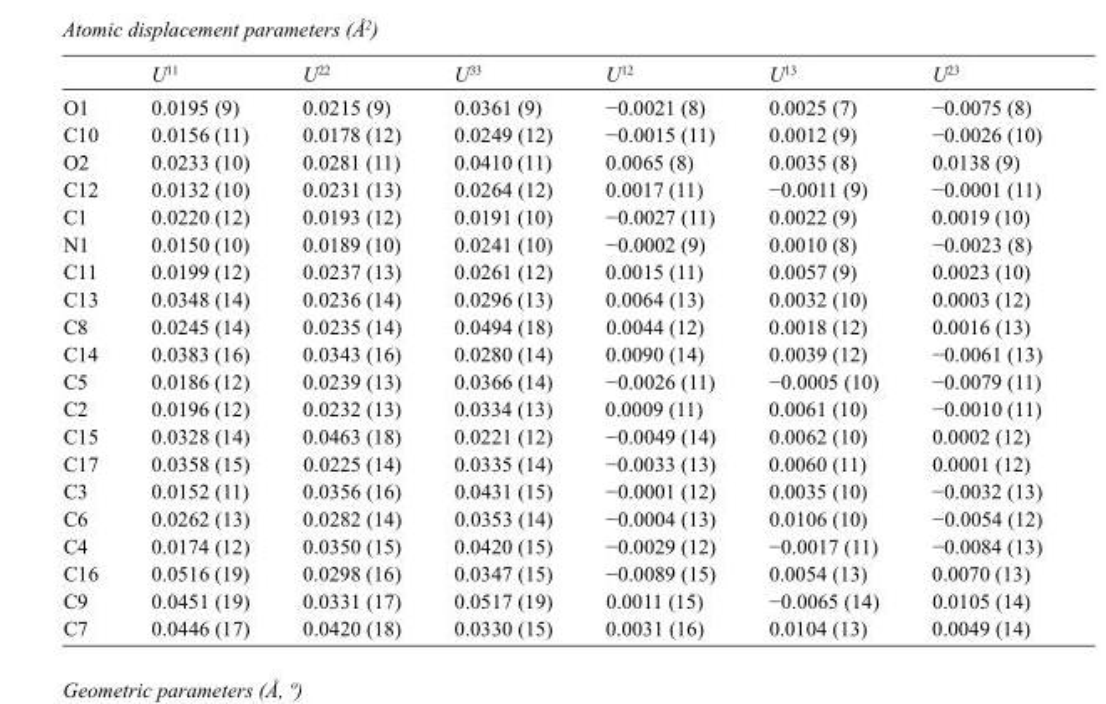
<table><thead><tr><td></td><td>U<sup>11</sup></td><td>U<sup>22</sup></td><td>U<sup>33</sup></td><td>U<sup>12</sup></td><td>U<sup>13</sup></td><td>U<sup>23</sup></td></tr></thead><tbody><tr><td>O1</td><td>0.0195 (9)</td><td>0.0215 (9)</td><td>0.0361 (9)</td><td>−0.0021 (8)</td><td>0.0025 (7)</td><td>−0.0075 (8)</td></tr><tr><td>C10</td><td>0.0156 (11)</td><td>0.0178 (12)</td><td>0.0249 (12)</td><td>−0.0015 (11)</td><td>0.0012 (9)</td><td>−0.0026 (10)</td></tr><tr><td>O2</td><td>0.0233 (10)</td><td>0.0281 (11)</td><td>0.0410 (11)</td><td>0.0065 (8)</td><td>0.0035 (8)</td><td>0.0138 (9)</td></tr><tr><td>C12</td><td>0.0132 (10)</td><td>0.0231 (13)</td><td>0.0264 (12)</td><td>0.0017 (11)</td><td>−0.0011 (9)</td><td>−0.0001 (11)</td></tr><tr><td>C1</td><td>0.0220 (12)</td><td>0.0193 (12)</td><td>0.0191 (10)</td><td>−0.0027 (11)</td><td>0.0022 (9)</td><td>0.0019 (10)</td></tr><tr><td>N1</td><td>0.0150 (10)</td><td>0.0189 (10)</td><td>0.0241 (10)</td><td>−0.0002 (9)</td><td>0.0010 (8)</td><td>−0.0023 (8)</td></tr><tr><td>C11</td><td>0.0199 (12)</td><td>0.0237 (13)</td><td>0.0261 (12)</td><td>0.0015 (11)</td><td>0.0057 (9)</td><td>0.0023 (10)</td></tr><tr><td>C13</td><td>0.0348 (14)</td><td>0.0236 (14)</td><td>0.0296 (13)</td><td>0.0064 (13)</td><td>0.0032 (10)</td><td>0.0003 (12)</td></tr><tr><td>C8</td><td>0.0245 (14)</td><td>0.0235 (14)</td><td>0.0494 (18)</td><td>0.0044 (12)</td><td>0.0018 (12)</td><td>0.0016 (13)</td></tr><tr><td>C14</td><td>0.0383 (16)</td><td>0.0343 (16)</td><td>0.0280 (14)</td><td>0.0090 (14)</td><td>0.0039 (12)</td><td>−0.0061 (13)</td></tr><tr><td>C5</td><td>0.0186 (12)</td><td>0.0239 (13)</td><td>0.0366 (14)</td><td>−0.0026 (11)</td><td>−0.0005 (10)</td><td>−0.0079 (11)</td></tr><tr><td>C2</td><td>0.0196 (12)</td><td>0.0232 (13)</td><td>0.0334 (13)</td><td>0.0009 (11)</td><td>0.0061 (10)</td><td>−0.0010 (11)</td></tr><tr><td>C15</td><td>0.0328 (14)</td><td>0.0463 (18)</td><td>0.0221 (12)</td><td>−0.0049 (14)</td><td>0.0062 (10)</td><td>0.0002 (12)</td></tr><tr><td>C17</td><td>0.0358 (15)</td><td>0.0225 (14)</td><td>0.0335 (14)</td><td>−0.0033 (13)</td><td>0.0060 (11)</td><td>0.0001 (12)</td></tr><tr><td>C3</td><td>0.0152 (11)</td><td>0.0356 (16)</td><td>0.0431 (15)</td><td>−0.0001 (12)</td><td>0.0035 (10)</td><td>−0.0032 (13)</td></tr><tr><td>C6</td><td>0.0262 (13)</td><td>0.0282 (14)</td><td>0.0353 (14)</td><td>−0.0004 (13)</td><td>0.0106 (10)</td><td>−0.0054 (12)</td></tr><tr><td>C4</td><td>0.0174 (12)</td><td>0.0350 (15)</td><td>0.0420 (15)</td><td>−0.0029 (12)</td><td>−0.0017 (11)</td><td>−0.0084 (13)</td></tr><tr><td>C16</td><td>0.0516 (19)</td><td>0.0298 (16)</td><td>0.0347 (15)</td><td>−0.0089 (15)</td><td>0.0054 (13)</td><td>0.0070 (13)</td></tr><tr><td>C9</td><td>0.0451 (19)</td><td>0.0331 (17)</td><td>0.0517 (19)</td><td>0.0011 (15)</td><td>−0.0065 (14)</td><td>0.0105 (14)</td></tr><tr><td>C7</td><td>0.0446 (17)</td><td>0.0420 (18)</td><td>0.0330 (15)</td><td>0.0031 (16)</td><td>0.0104 (13)</td><td>0.0049 (14)</td></tr></tbody></table>